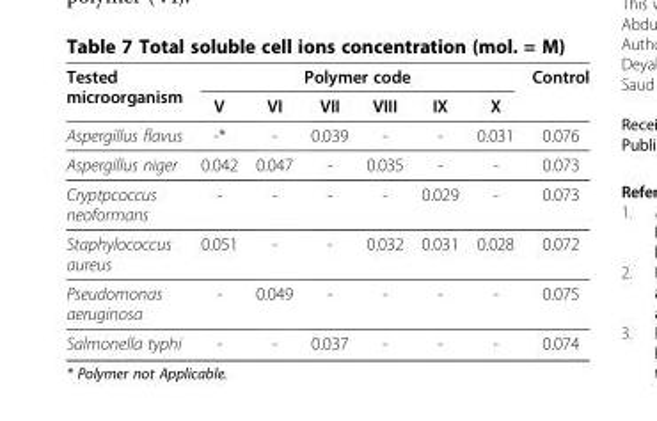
<table><thead><tr><td rowspan="2">Tested microorganism</td><td colspan="6">Polymer code</td><td rowspan="2">Control</td></tr><tr><td>V</td><td>VI</td><td>VII</td><td>VIII</td><td>IX</td><td>X</td></tr></thead><tbody><tr><td>Aspergillus flavus</td><td>-*</td><td>-</td><td>0.039</td><td>-</td><td>-</td><td>0.031</td><td>0.076</td></tr><tr><td>Aspergillus niger</td><td>0.042</td><td>0.047</td><td>-</td><td>0.035</td><td>-</td><td>-</td><td>0.073</td></tr><tr><td>Cryptpcoccus neoformans</td><td>-</td><td>-</td><td>-</td><td>-</td><td>0.029</td><td>-</td><td>0.073</td></tr><tr><td>Staphylococcus aureus</td><td>0.051</td><td>-</td><td>-</td><td>0.032</td><td>0.031</td><td>0.028</td><td>0.072</td></tr><tr><td>Pseudomonas aeruginosa</td><td>-</td><td>0.049</td><td>-</td><td>-</td><td>-</td><td>-</td><td>0.075</td></tr><tr><td>Salmonella typhi</td><td>-</td><td>-</td><td>0.037</td><td>-</td><td>-</td><td>-</td><td>0.074</td></tr></tbody></table>